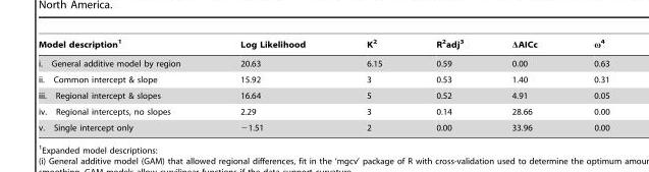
<table><thead><tr><td>Model description<sup>1</sup></td><td>Log Likelihood</td><td>K<sup>2</sup></td><td>R<sup>2</sup>adj<sup>3</sup></td><td>ΔAICc</td><td>ω<sup>4</sup></td></tr></thead><tbody><tr><td>i. General additive model by region</td><td>20.63</td><td>6.15</td><td>0.59</td><td>0.00</td><td>0.63</td></tr><tr><td>ii. Common intercept &amp; slope</td><td>15.92</td><td>3</td><td>0.53</td><td>1.40</td><td>0.31</td></tr><tr><td>iii. Regional intercept &amp; slopes</td><td>16.64</td><td>5</td><td>0.52</td><td>4.91</td><td>0.05</td></tr><tr><td>iv. Regional intercepts, no slopes</td><td>2.29</td><td>3</td><td>0.14</td><td>28.66</td><td>0.00</td></tr><tr><td>v. Single intercept only</td><td>−1.51</td><td>2</td><td>0.00</td><td>33.96</td><td>0.00</td></tr></tbody></table>